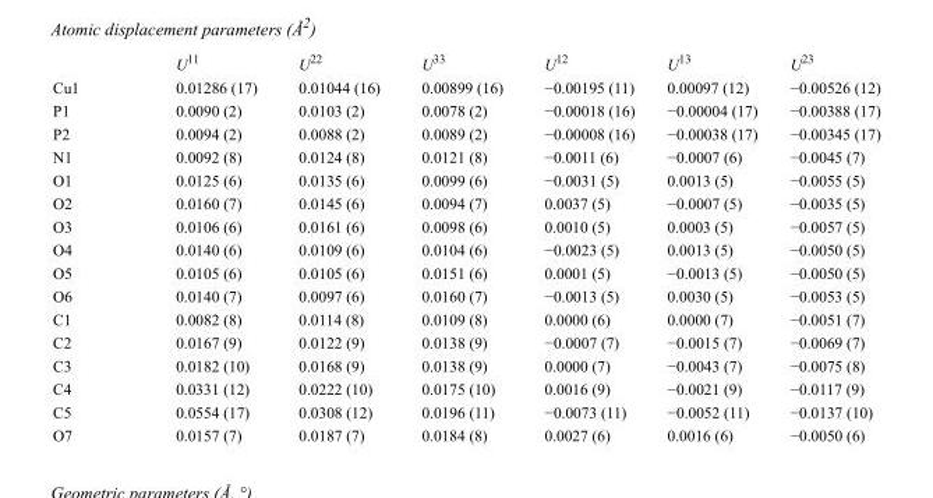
<table><thead><tr><td></td><td>U<sup>11</sup></td><td>U<sup>22</sup></td><td>U<sup>33</sup></td><td>U<sup>12</sup></td><td>U<sup>13</sup></td><td>U<sup>23</sup></td></tr></thead><tbody><tr><td>Cu1</td><td>0.01286 (17)</td><td>0.01044 (16)</td><td>0.00899 (16)</td><td>−0.00195 (11)</td><td>0.00097 (12)</td><td>−0.00526 (12)</td></tr><tr><td>P1</td><td>0.0090 (2)</td><td>0.0103 (2)</td><td>0.0078 (2)</td><td>−0.00018 (16)</td><td>−0.00004 (17)</td><td>−0.00388 (17)</td></tr><tr><td>P2</td><td>0.0094 (2)</td><td>0.0088 (2)</td><td>0.0089 (2)</td><td>−0.00008 (16)</td><td>−0.00038 (17)</td><td>−0.00345 (17)</td></tr><tr><td>N1</td><td>0.0092 (8)</td><td>0.0124 (8)</td><td>0.0121 (8)</td><td>−0.0011 (6)</td><td>−0.0007 (6)</td><td>−0.0045 (7)</td></tr><tr><td>O1</td><td>0.0125 (6)</td><td>0.0135 (6)</td><td>0.0099 (6)</td><td>−0.0031 (5)</td><td>0.0013 (5)</td><td>−0.0055 (5)</td></tr><tr><td>O2</td><td>0.0160 (7)</td><td>0.0145 (6)</td><td>0.0094 (7)</td><td>0.0037 (5)</td><td>−0.0007 (5)</td><td>−0.0035 (5)</td></tr><tr><td>O3</td><td>0.0106 (6)</td><td>0.0161 (6)</td><td>0.0098 (6)</td><td>0.0010 (5)</td><td>0.0003 (5)</td><td>−0.0057 (5)</td></tr><tr><td>O4</td><td>0.0140 (6)</td><td>0.0109 (6)</td><td>0.0104 (6)</td><td>−0.0023 (5)</td><td>0.0013 (5)</td><td>−0.0050 (5)</td></tr><tr><td>O5</td><td>0.0105 (6)</td><td>0.0105 (6)</td><td>0.0151 (6)</td><td>0.0001 (5)</td><td>−0.0013 (5)</td><td>−0.0050 (5)</td></tr><tr><td>O6</td><td>0.0140 (7)</td><td>0.0097 (6)</td><td>0.0160 (7)</td><td>−0.0013 (5)</td><td>0.0030 (5)</td><td>−0.0053 (5)</td></tr><tr><td>C1</td><td>0.0082 (8)</td><td>0.0114 (8)</td><td>0.0109 (8)</td><td>0.0000 (6)</td><td>0.0000 (7)</td><td>−0.0051 (7)</td></tr><tr><td>C2</td><td>0.0167 (9)</td><td>0.0122 (9)</td><td>0.0138 (9)</td><td>−0.0007 (7)</td><td>−0.0015 (7)</td><td>−0.0069 (7)</td></tr><tr><td>C3</td><td>0.0182 (10)</td><td>0.0168 (9)</td><td>0.0138 (9)</td><td>0.0000 (7)</td><td>−0.0043 (7)</td><td>−0.0075 (8)</td></tr><tr><td>C4</td><td>0.0331 (12)</td><td>0.0222 (10)</td><td>0.0175 (10)</td><td>0.0016 (9)</td><td>−0.0021 (9)</td><td>−0.0117 (9)</td></tr><tr><td>C5</td><td>0.0554 (17)</td><td>0.0308 (12)</td><td>0.0196 (11)</td><td>−0.0073 (11)</td><td>−0.0052 (11)</td><td>−0.0137 (10)</td></tr><tr><td>O7</td><td>0.0157 (7)</td><td>0.0187 (7)</td><td>0.0184 (8)</td><td>0.0027 (6)</td><td>0.0016 (6)</td><td>−0.0050 (6)</td></tr></tbody></table>